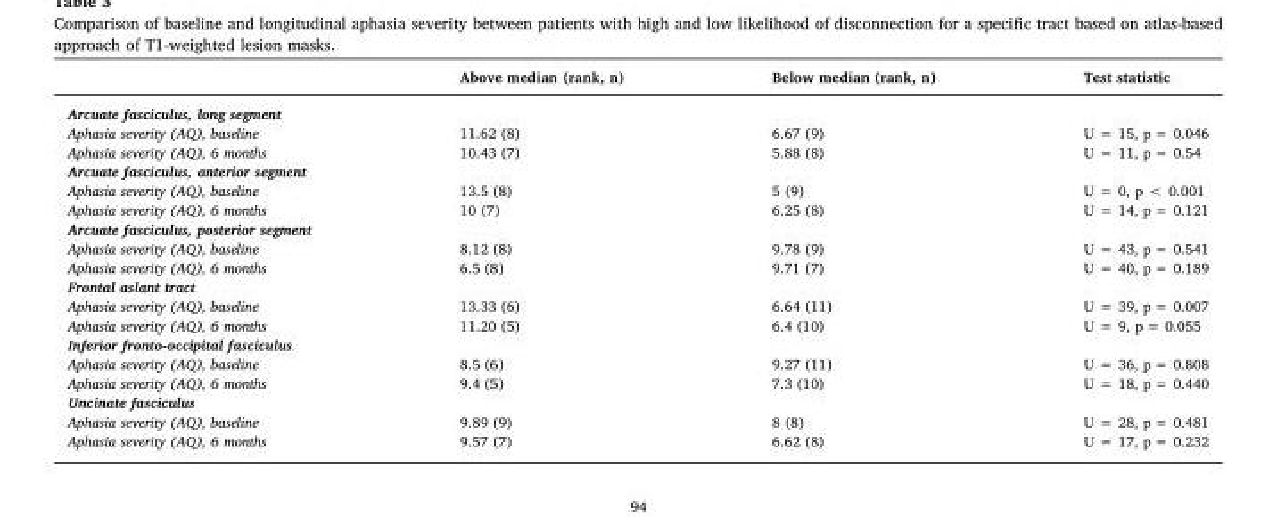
<table><thead><tr><td></td><td>Above median (rank, n)</td><td>Below median (rank, n)</td><td>Test statistic</td></tr></thead><tbody><tr><td colspan="4">Arcuate fasciculus, long segment</td></tr><tr><td>Aphasia severity (AQ), baseline</td><td>11.62 (8)</td><td>6.67 (9)</td><td>U = 15, p = 0.046</td></tr><tr><td>Aphasia severity (AQ), 6 months</td><td>10.43 (7)</td><td>5.88 (8)</td><td>U = 11, p = 0.54</td></tr><tr><td colspan="4">Arcuate fasciculus, anterior segment</td></tr><tr><td>Aphasia severity (AQ), baseline</td><td>13.5 (8)</td><td>5 (9)</td><td>U = 0, p &lt; 0.001</td></tr><tr><td>Aphasia severity (AQ), 6 months</td><td>10 (7)</td><td>6.25 (8)</td><td>U = 14, p = 0.121</td></tr><tr><td colspan="4">Arcuate fasciculus, posterior segment</td></tr><tr><td>Aphasia severity (AQ), baseline</td><td>8.12 (8)</td><td>9.78 (9)</td><td>U = 43, p = 0.541</td></tr><tr><td>Aphasia severity (AQ), 6 months</td><td>6.5 (8)</td><td>9.71 (7)</td><td>U = 40, p = 0.189</td></tr><tr><td colspan="4">Frontal aslant tract</td></tr><tr><td>Aphasia severity (AQ), baseline</td><td>13.33 (6)</td><td>6.64 (11)</td><td>U = 39, p = 0.007</td></tr><tr><td>Aphasia severity (AQ), 6 months</td><td>11.20 (5)</td><td>6.4 (10)</td><td>U = 9, p = 0.055</td></tr><tr><td colspan="4">Inferior fronto-occipital fasciculus</td></tr><tr><td>Aphasia severity (AQ), baseline</td><td>8.5 (6)</td><td>9.27 (11)</td><td>U = 36, p = 0.808</td></tr><tr><td>Aphasia severity (AQ), 6 months</td><td>9.4 (5)</td><td>7.3 (10)</td><td>U = 18, p = 0.440</td></tr><tr><td colspan="4">Uncinate fasciculus</td></tr><tr><td>Aphasia severity (AQ), baseline</td><td>9.89 (9)</td><td>8 (8)</td><td>U = 28, p = 0.481</td></tr><tr><td>Aphasia severity (AQ), 6 months</td><td>9.57 (7)</td><td>6.62 (8)</td><td>U = 17, p = 0.232</td></tr></tbody></table>